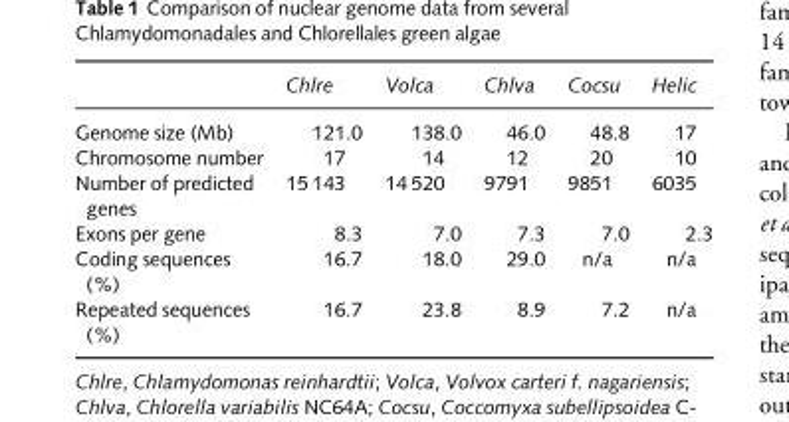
<table><thead><tr><td></td><td>Chlre</td><td>Volca</td><td>Chlva</td><td>Cocsu</td><td>Helic</td></tr></thead><tbody><tr><td>Genome size (Mb)</td><td>121.0</td><td>138.0</td><td>46.0</td><td>48.8</td><td>17</td></tr><tr><td>Chromosome number</td><td>17</td><td>14</td><td>12</td><td>20</td><td>10</td></tr><tr><td>Number of predicted genes</td><td>15 143</td><td>14 520</td><td>9791</td><td>9851</td><td>6035</td></tr><tr><td>Exons per gene</td><td>8.3</td><td>7.0</td><td>7.3</td><td>7.0</td><td>2.3</td></tr><tr><td>Coding sequences (%)</td><td>16.7</td><td>18.0</td><td>29.0</td><td>n/a</td><td>n/a</td></tr><tr><td>Repeated sequences (%)</td><td>16.7</td><td>23.8</td><td>8.9</td><td>7.2</td><td>n/a</td></tr></tbody></table>